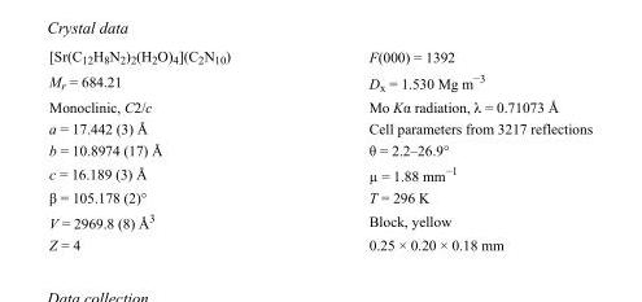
<table><tbody><tr><td>[Sr(C<sub>12</sub>H<sub>8</sub>N<sub>2</sub>)<sub>2</sub>(H<sub>2</sub>O)<sub>4</sub>](C<sub>2</sub>N<sub>10</sub>)</td><td>F(000) = 1392</td></tr><tr><td>M<sub>r</sub> = 684.21</td><td>D<sub>x</sub> = 1.530 Mg m<sup>−3</sup></td></tr><tr><td>Monoclinic, C2/c</td><td>Mo Kα radiation, λ = 0.71073 Å</td></tr><tr><td>a = 17.442 (3) Å</td><td>Cell parameters from 3217 reflections</td></tr><tr><td>b = 10.8974 (17) Å</td><td>θ = 2.2–26.9°</td></tr><tr><td>c = 16.189 (3) Å</td><td>µ = 1.88 mm<sup>−1</sup></td></tr><tr><td>β = 105.178 (2)°</td><td>T = 296 K</td></tr><tr><td>V = 2969.8 (8) Å<sup>3</sup></td><td>Block, yellow</td></tr><tr><td>Z = 4</td><td>0.25 × 0.20 × 0.18 mm</td></tr></tbody></table>